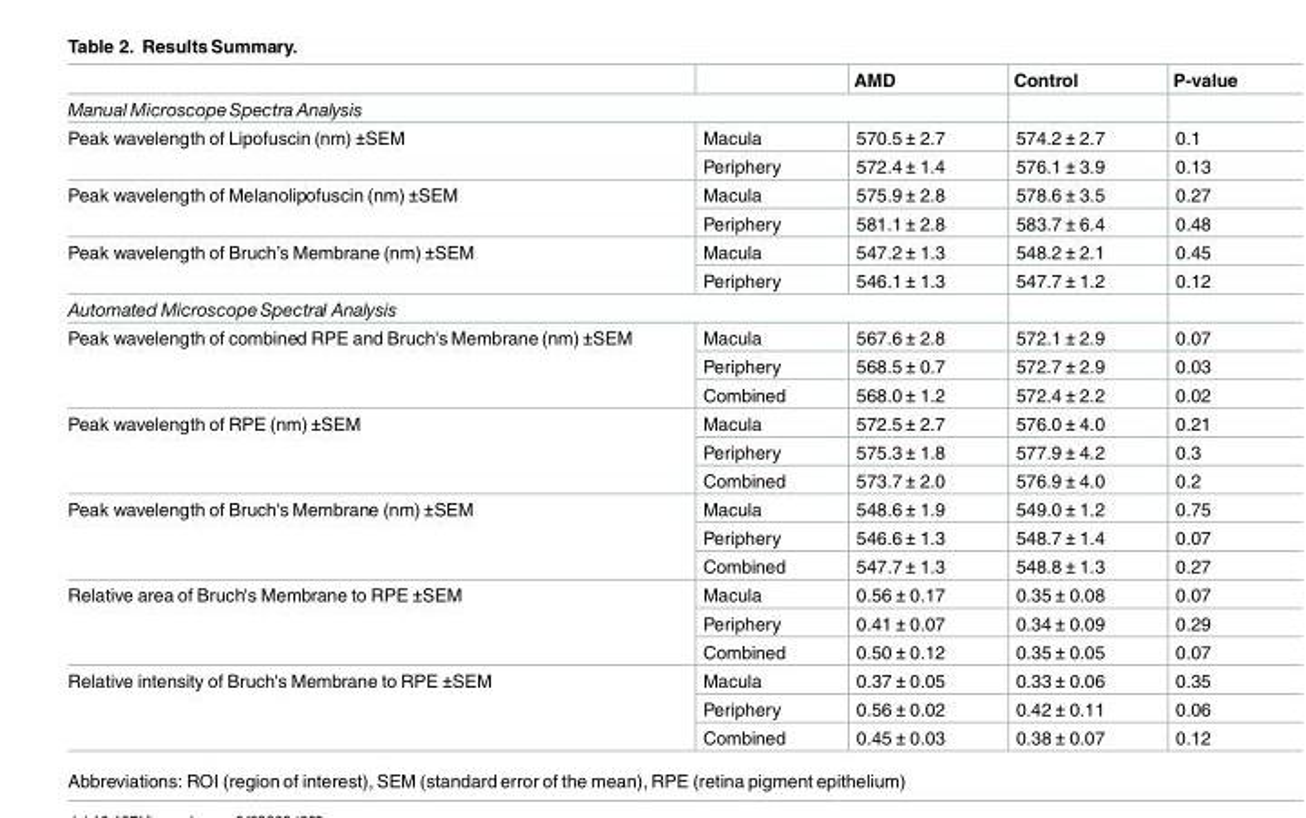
<table><thead><tr><td></td><td></td><td>AMD</td><td rowspan="2">Control</td><td rowspan="2">P-value</td></tr><tr><td colspan="3">Manual Microscope Spectra Analysis</td></tr></thead><tbody><tr><td rowspan="2">Peak wavelength of Lipofuscin (nm) ±SEM</td><td>Macula</td><td>570.5 ± 2.7</td><td>574.2 ± 2.7</td><td>0.1</td></tr><tr><td>Periphery</td><td>572.4 ± 1.4</td><td>576.1 ± 3.9</td><td>0.13</td></tr><tr><td rowspan="2">Peak wavelength of Melanolipofuscin (nm) ±SEM</td><td>Macula</td><td>575.9 ± 2.8</td><td>578.6 ± 3.5</td><td>0.27</td></tr><tr><td>Periphery</td><td>581.1 ± 2.8</td><td>583.7 ± 6.4</td><td>0.48</td></tr><tr><td rowspan="2">Peak wavelength of Bruch’s Membrane (nm) ±SEM</td><td>Macula</td><td>547.2 ± 1.3</td><td>548.2 ± 2.1</td><td>0.45</td></tr><tr><td>Periphery</td><td>546.1 ± 1.3</td><td>547.7 ± 1.2</td><td>0.12</td></tr><tr><td colspan="5">Automated Microscope Spectral Analysis</td></tr><tr><td rowspan="3">Peak wavelength of combined RPE and Bruch&#x27;s Membrane (nm) ±SEM</td><td>Macula</td><td>567.6 ± 2.8</td><td>572.1 ± 2.9</td><td>0.07</td></tr><tr><td>Periphery</td><td>568.5 ± 0.7</td><td>572.7 ± 2.9</td><td>0.03</td></tr><tr><td>Combined</td><td>568.0 ± 1.2</td><td>572.4 ± 2.2</td><td>0.02</td></tr><tr><td rowspan="3">Peak wavelength of RPE (nm) ±SEM</td><td>Macula</td><td>572.5 ± 2.7</td><td>576.0 ± 4.0</td><td>0.21</td></tr><tr><td>Periphery</td><td>575.3 ± 1.8</td><td>577.9 ± 4.2</td><td>0.3</td></tr><tr><td>Combined</td><td>573.7 ± 2.0</td><td>576.9 ± 4.0</td><td>0.2</td></tr><tr><td rowspan="3">Peak wavelength of Bruch&#x27;s Membrane (nm) ±SEM</td><td>Macula</td><td>548.6 ± 1.9</td><td>549.0 ± 1.2</td><td>0.75</td></tr><tr><td>Periphery</td><td>546.6 ± 1.3</td><td>548.7 ± 1.4</td><td>0.07</td></tr><tr><td>Combined</td><td>547.7 ± 1.3</td><td>548.8 ± 1.3</td><td>0.27</td></tr><tr><td rowspan="3">Relative area of Bruch&#x27;s Membrane to RPE ±SEM</td><td>Macula</td><td>0.56 ± 0.17</td><td>0.35 ± 0.08</td><td>0.07</td></tr><tr><td>Periphery</td><td>0.41 ± 0.07</td><td>0.34 ± 0.09</td><td>0.29</td></tr><tr><td>Combined</td><td>0.50 ± 0.12</td><td>0.35 ± 0.05</td><td>0.07</td></tr><tr><td rowspan="3">Relative intensity of Bruch&#x27;s Membrane to RPE ±SEM</td><td>Macula</td><td>0.37 ± 0.05</td><td>0.33 ± 0.06</td><td>0.35</td></tr><tr><td>Periphery</td><td>0.56 ± 0.02</td><td>0.42 ± 0.11</td><td>0.06</td></tr><tr><td>Combined</td><td>0.45 ± 0.03</td><td>0.38 ± 0.07</td><td>0.12</td></tr></tbody></table>